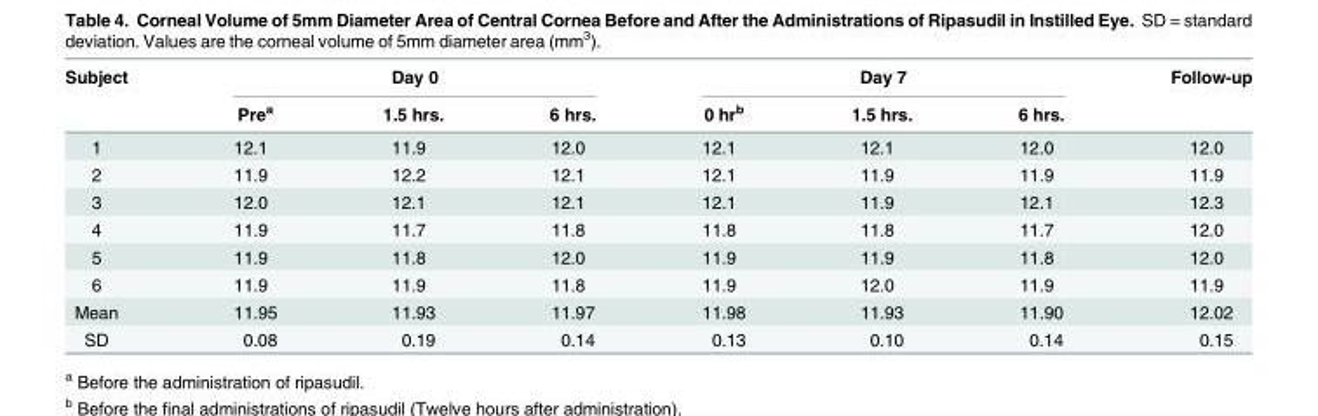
<table><thead><tr><td rowspan="2">Subject</td><td colspan="3">Day 0</td><td colspan="3">Day 7</td><td rowspan="2">Follow-up</td></tr><tr><td>Pre<sup>a</sup></td><td>1.5 hrs.</td><td>6 hrs.</td><td>0 hr<sup>b</sup></td><td>1.5 hrs.</td><td>6 hrs.</td></tr></thead><tbody><tr><td>1</td><td>12.1</td><td>11.9</td><td>12.0</td><td>12.1</td><td>12.1</td><td>12.0</td><td>12.0</td></tr><tr><td>2</td><td>11.9</td><td>12.2</td><td>12.1</td><td>12.1</td><td>11.9</td><td>11.9</td><td>11.9</td></tr><tr><td>3</td><td>12.0</td><td>12.1</td><td>12.1</td><td>12.1</td><td>11.9</td><td>12.1</td><td>12.3</td></tr><tr><td>4</td><td>11.9</td><td>11.7</td><td>11.8</td><td>11.8</td><td>11.8</td><td>11.7</td><td>12.0</td></tr><tr><td>5</td><td>11.9</td><td>11.8</td><td>12.0</td><td>11.9</td><td>11.9</td><td>11.8</td><td>12.0</td></tr><tr><td>6</td><td>11.9</td><td>11.9</td><td>11.8</td><td>11.9</td><td>12.0</td><td>11.9</td><td>11.9</td></tr><tr><td>Mean</td><td>11.95</td><td>11.93</td><td>11.97</td><td>11.98</td><td>11.93</td><td>11.90</td><td>12.02</td></tr><tr><td>SD</td><td>0.08</td><td>0.19</td><td>0.14</td><td>0.13</td><td>0.10</td><td>0.14</td><td>0.15</td></tr></tbody></table>